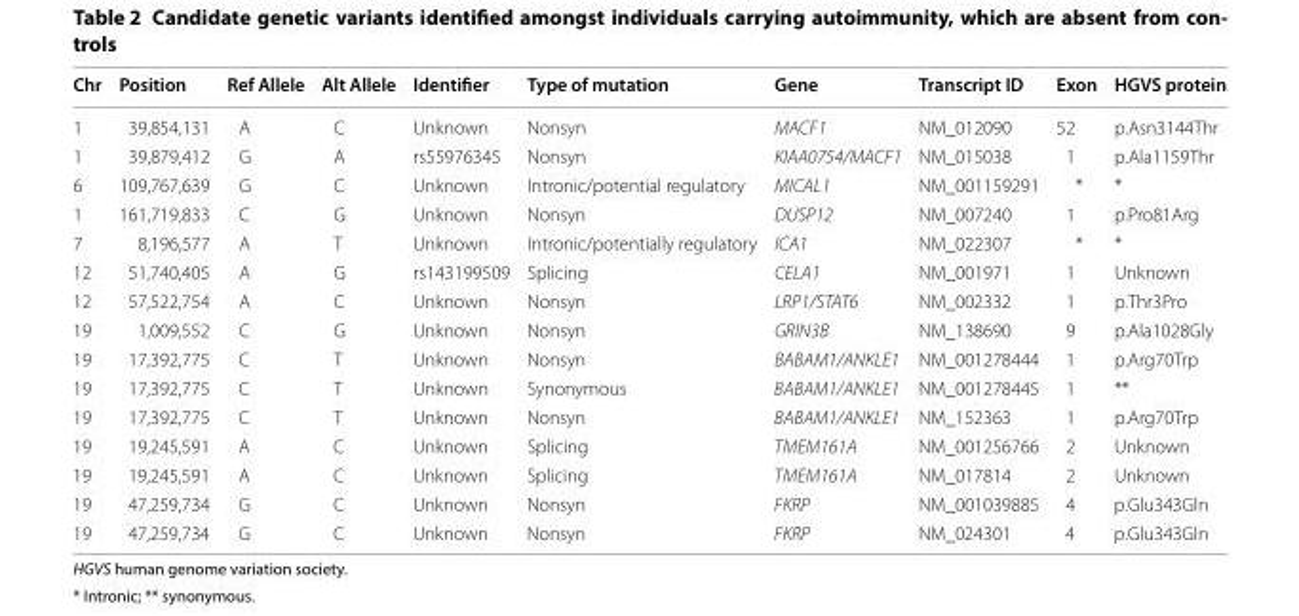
<table><thead><tr><td>Chr</td><td>Position</td><td>Ref Allele</td><td>Alt Allele</td><td>Identifier</td><td>Type of mutation</td><td>Gene</td><td>Transcript ID</td><td>Exon</td><td>HGVS protein</td></tr></thead><tbody><tr><td>1</td><td>39,854,131</td><td>A</td><td>C</td><td>Unknown</td><td>Nonsyn</td><td>MACF1</td><td>NM_012090</td><td>52</td><td>p.Asn3144Thr</td></tr><tr><td>1</td><td>39,879,412</td><td>G</td><td>A</td><td>rs55976345</td><td>Nonsyn</td><td>KIAA0754/MACF1</td><td>NM_015038</td><td>1</td><td>p.Ala1159Thr</td></tr><tr><td>6</td><td>109,767,639</td><td>G</td><td>C</td><td>Unknown</td><td>Intronic/potential regulatory</td><td>MICAL1</td><td>NM_001159291</td><td>*</td><td>*</td></tr><tr><td>1</td><td>161,719,833</td><td>C</td><td>G</td><td>Unknown</td><td>Nonsyn</td><td>DUSP12</td><td>NM_007240</td><td>1</td><td>p.Pro81Arg</td></tr><tr><td>7</td><td>8,196,577</td><td>A</td><td>T</td><td>Unknown</td><td>Intronic/potentially regulatory</td><td>ICA1</td><td>NM_022307</td><td>*</td><td>*</td></tr><tr><td>12</td><td>51,740,405</td><td>A</td><td>G</td><td>rs143199509</td><td>Splicing</td><td>CELA1</td><td>NM_001971</td><td>1</td><td>Unknown</td></tr><tr><td>12</td><td>57,522,754</td><td>A</td><td>C</td><td>Unknown</td><td>Nonsyn</td><td>LRP1/STAT6</td><td>NM_002332</td><td>1</td><td>p.Thr3Pro</td></tr><tr><td>19</td><td>1,009,552</td><td>C</td><td>G</td><td>Unknown</td><td>Nonsyn</td><td>GRIN3B</td><td>NM_138690</td><td>9</td><td>p.Ala1028Gly</td></tr><tr><td>19</td><td>17,392,775</td><td>C</td><td>T</td><td>Unknown</td><td>Nonsyn</td><td>BABAM1/ANKLE1</td><td>NM_001278444</td><td>1</td><td>p.Arg70Trp</td></tr><tr><td>19</td><td>17,392,775</td><td>C</td><td>T</td><td>Unknown</td><td>Synonymous</td><td>BABAM1/ANKLE1</td><td>NM_001278445</td><td>1</td><td>**</td></tr><tr><td>19</td><td>17,392,775</td><td>C</td><td>T</td><td>Unknown</td><td>Nonsyn</td><td>BABAM1/ANKLE1</td><td>NM_152363</td><td>1</td><td>p.Arg70Trp</td></tr><tr><td>19</td><td>19,245,591</td><td>A</td><td>C</td><td>Unknown</td><td>Splicing</td><td>TMEM161A</td><td>NM_001256766</td><td>2</td><td>Unknown</td></tr><tr><td>19</td><td>19,245,591</td><td>A</td><td>C</td><td>Unknown</td><td>Splicing</td><td>TMEM161A</td><td>NM_017814</td><td>2</td><td>Unknown</td></tr><tr><td>19</td><td>47,259,734</td><td>G</td><td>C</td><td>Unknown</td><td>Nonsyn</td><td>FKRP</td><td>NM_001039885</td><td>4</td><td>p.Glu343Gln</td></tr><tr><td>19</td><td>47,259,734</td><td>G</td><td>C</td><td>Unknown</td><td>Nonsyn</td><td>FKRP</td><td>NM_024301</td><td>4</td><td>p.Glu343Gln</td></tr></tbody></table>